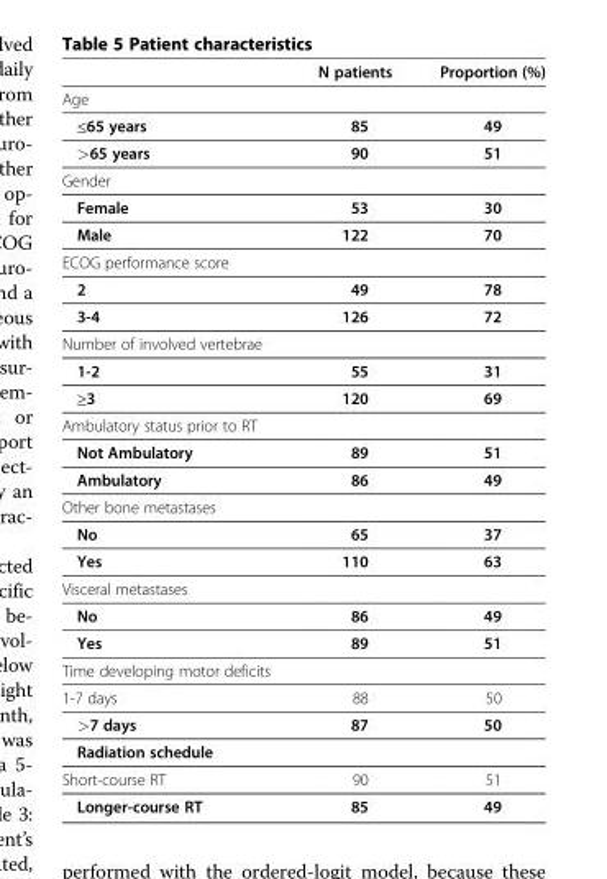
<table><thead><tr><td></td><td>N patients</td><td>Proportion (%)</td></tr></thead><tbody><tr><td colspan="3">Age</td></tr><tr><td>≤65 years</td><td>85</td><td>49</td></tr><tr><td>&gt;65 years</td><td>90</td><td>51</td></tr><tr><td colspan="3">Gender</td></tr><tr><td>Female</td><td>53</td><td>30</td></tr><tr><td>Male</td><td>122</td><td>70</td></tr><tr><td colspan="3">ECOG performance score</td></tr><tr><td>2</td><td>49</td><td>78</td></tr><tr><td>3-4</td><td>126</td><td>72</td></tr><tr><td colspan="3">Number of involved vertebrae</td></tr><tr><td>1-2</td><td>55</td><td>31</td></tr><tr><td>≥3</td><td>120</td><td>69</td></tr><tr><td colspan="3">Ambulatory status prior to RT</td></tr><tr><td>Not Ambulatory</td><td>89</td><td>51</td></tr><tr><td>Ambulatory</td><td>86</td><td>49</td></tr><tr><td colspan="3">Other bone metastases</td></tr><tr><td>No</td><td>65</td><td>37</td></tr><tr><td>Yes</td><td>110</td><td>63</td></tr><tr><td colspan="3">Visceral metastases</td></tr><tr><td>No</td><td>86</td><td>49</td></tr><tr><td>Yes</td><td>89</td><td>51</td></tr><tr><td colspan="3">Time developing motor deficits</td></tr><tr><td>1-7 days</td><td>88</td><td>50</td></tr><tr><td>&gt;7 days</td><td>87</td><td>50</td></tr><tr><td colspan="3">Radiation schedule</td></tr><tr><td>Short-course RT</td><td>90</td><td>51</td></tr><tr><td>Longer-course RT</td><td>85</td><td>49</td></tr></tbody></table>